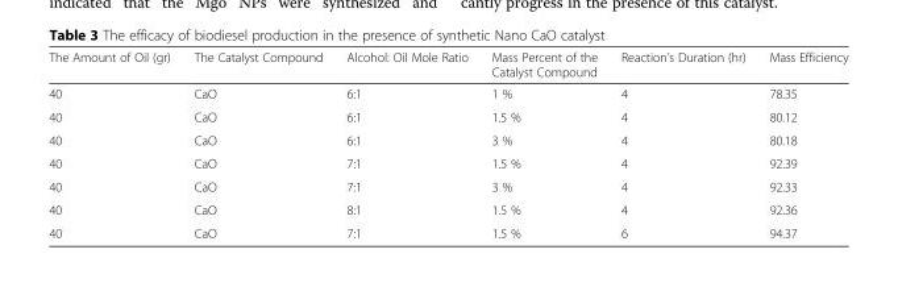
<table><thead><tr><td>The Amount of Oil (gr)</td><td>The Catalyst Compound</td><td>Alcohol: Oil Mole Ratio</td><td>Mass Percent of the Catalyst Compound</td><td>Reaction’s Duration (hr)</td><td>Mass Efficiency</td></tr></thead><tbody><tr><td>40</td><td>CaO</td><td>6:1</td><td>1 %</td><td>4</td><td>78.35</td></tr><tr><td>40</td><td>CaO</td><td>6:1</td><td>1.5 %</td><td>4</td><td>80.12</td></tr><tr><td>40</td><td>CaO</td><td>6:1</td><td>3 %</td><td>4</td><td>80.18</td></tr><tr><td>40</td><td>CaO</td><td>7:1</td><td>1.5 %</td><td>4</td><td>92.39</td></tr><tr><td>40</td><td>CaO</td><td>7:1</td><td>3 %</td><td>4</td><td>92.33</td></tr><tr><td>40</td><td>CaO</td><td>8:1</td><td>1.5 %</td><td>4</td><td>92.36</td></tr><tr><td>40</td><td>CaO</td><td>7:1</td><td>1.5 %</td><td>6</td><td>94.37</td></tr></tbody></table>